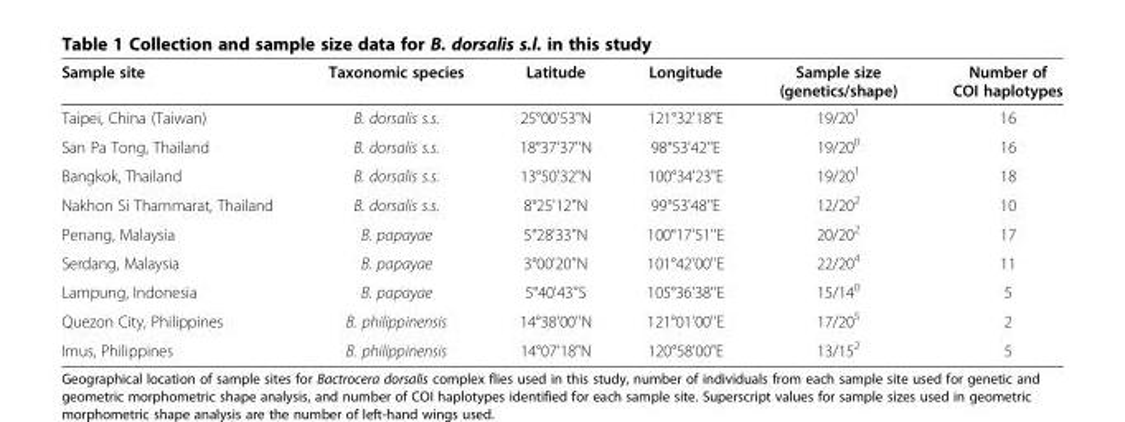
<table><thead><tr><td>Sample site</td><td>Taxonomic species</td><td>Latitude</td><td>Longitude</td><td>Sample size (genetics/shape)</td><td>Number of COI haplotypes</td></tr></thead><tbody><tr><td>Taipei, China (Taiwan)</td><td>B. dorsalis s.s.</td><td>25°00&#x27;53&quot;N</td><td>121°32&#x27;18&quot;E</td><td>19/20<sup>1</sup></td><td>16</td></tr><tr><td>San Pa Tong, Thailand</td><td>B. dorsalis s.s.</td><td>18°37&#x27;37&#x27;&#x27;N</td><td>98°53&#x27;42&#x27;&#x27;E</td><td>19/20<sup>0</sup></td><td>16</td></tr><tr><td>Bangkok, Thailand</td><td>B. dorsalis s.s.</td><td>13°50&#x27;32&quot;N</td><td>100°34&#x27;23&quot;E</td><td>19/20<sup>1</sup></td><td>18</td></tr><tr><td>Nakhon Si Thammarat, Thailand</td><td>B. dorsalis s.s.</td><td>8°25&#x27;12&#x27;&#x27;N</td><td>99°53&#x27;48&#x27;&#x27;E</td><td>12/20<sup>2</sup></td><td>10</td></tr><tr><td>Penang, Malaysia</td><td>B. papayae</td><td>5°28&#x27;33&#x27;&#x27;N</td><td>100°17&#x27;51&#x27;&#x27;E</td><td>20/20<sup>2</sup></td><td>17</td></tr><tr><td>Serdang, Malaysia</td><td>B. papayae</td><td>3°00&#x27;20&#x27;&#x27;N</td><td>101°42&#x27;00&#x27;&#x27;E</td><td>22/20<sup>4</sup></td><td>11</td></tr><tr><td>Lampung, Indonesia</td><td>B. papayae</td><td>5°40&#x27;43&#x27;&#x27;S</td><td>105°36&#x27;38&#x27;&#x27;E</td><td>15/14<sup>0</sup></td><td>5</td></tr><tr><td>Quezon City, Philippines</td><td>B. philippinensis</td><td>14°38&#x27;00&#x27;&#x27;N</td><td>121°01&#x27;00&#x27;&#x27;E</td><td>17/20<sup>5</sup></td><td>2</td></tr><tr><td>Imus, Philippines</td><td>B. philippinensis</td><td>14°07&#x27;18&quot;N</td><td>120°58&#x27;00&quot;E</td><td>13/15<sup>2</sup></td><td>5</td></tr></tbody></table>